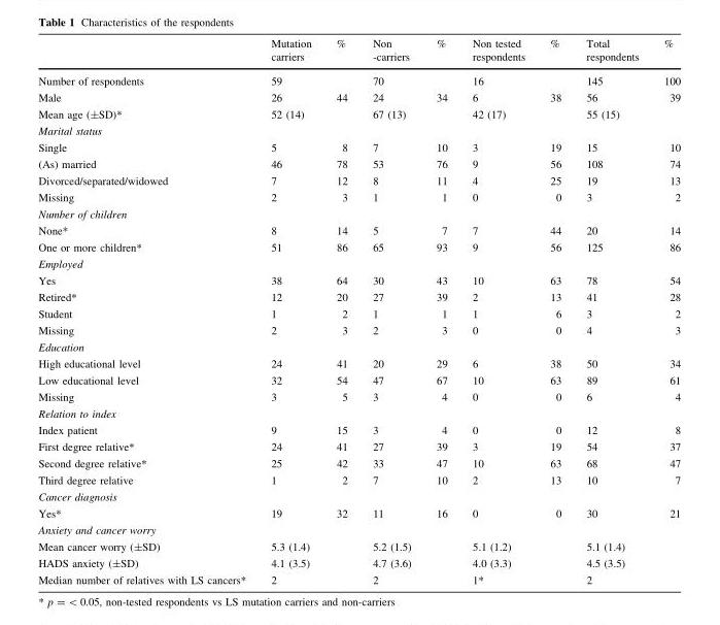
<table><thead><tr><td></td><td>Mutation carriers</td><td>%</td><td>Non -carriers</td><td>%</td><td>Non tested respondents</td><td>%</td><td>Total respondents</td><td>%</td></tr></thead><tbody><tr><td>Number of respondents</td><td>59</td><td></td><td>70</td><td></td><td>16</td><td></td><td>145</td><td>100</td></tr><tr><td>Male</td><td>26</td><td>44</td><td>24</td><td>34</td><td>6</td><td>38</td><td>56</td><td>39</td></tr><tr><td>Mean age (±SD)*</td><td>52 (14)</td><td></td><td>67 (13)</td><td></td><td>42 (17)</td><td></td><td>55 (15)</td><td></td></tr><tr><td colspan="9">Marital status</td></tr><tr><td>Single</td><td>5</td><td>8</td><td>7</td><td>10</td><td>3</td><td>19</td><td>15</td><td>10</td></tr><tr><td>(As) married</td><td>46</td><td>78</td><td>53</td><td>76</td><td>9</td><td>56</td><td>108</td><td>74</td></tr><tr><td>Divorced/separated/widowed</td><td>7</td><td>12</td><td>8</td><td>11</td><td>4</td><td>25</td><td>19</td><td>13</td></tr><tr><td>Missing</td><td>2</td><td>3</td><td>1</td><td>1</td><td>0</td><td>0</td><td>3</td><td>2</td></tr><tr><td colspan="9">Number of children</td></tr><tr><td>None*</td><td>8</td><td>14</td><td>5</td><td>7</td><td>7</td><td>44</td><td>20</td><td>14</td></tr><tr><td>One or more children*</td><td>51</td><td>86</td><td>65</td><td>93</td><td>9</td><td>56</td><td>125</td><td>86</td></tr><tr><td colspan="9">Employed</td></tr><tr><td>Yes</td><td>38</td><td>64</td><td>30</td><td>43</td><td>10</td><td>63</td><td>78</td><td>54</td></tr><tr><td>Retired*</td><td>12</td><td>20</td><td>27</td><td>39</td><td>2</td><td>13</td><td>41</td><td>28</td></tr><tr><td>Student</td><td>1</td><td>2</td><td>1</td><td>1</td><td>1</td><td>6</td><td>3</td><td>2</td></tr><tr><td>Missing</td><td>2</td><td>3</td><td>2</td><td>3</td><td>0</td><td>0</td><td>4</td><td>3</td></tr><tr><td colspan="9">Education</td></tr><tr><td>High educational level</td><td>24</td><td>41</td><td>20</td><td>29</td><td>6</td><td>38</td><td>50</td><td>34</td></tr><tr><td>Low educational level</td><td>32</td><td>54</td><td>47</td><td>67</td><td>10</td><td>63</td><td>89</td><td>61</td></tr><tr><td>Missing</td><td>3</td><td>5</td><td>3</td><td>4</td><td>0</td><td>0</td><td>6</td><td>4</td></tr><tr><td colspan="9">Relation to index</td></tr><tr><td>Index patient</td><td>9</td><td>15</td><td>3</td><td>4</td><td>0</td><td>0</td><td>12</td><td>8</td></tr><tr><td>First degree relative*</td><td>24</td><td>41</td><td>27</td><td>39</td><td>3</td><td>19</td><td>54</td><td>37</td></tr><tr><td>Second degree relative*</td><td>25</td><td>42</td><td>33</td><td>47</td><td>10</td><td>63</td><td>68</td><td>47</td></tr><tr><td>Third degree relative</td><td>1</td><td>2</td><td>7</td><td>10</td><td>2</td><td>13</td><td>10</td><td>7</td></tr><tr><td colspan="9">Cancer diagnosis</td></tr><tr><td>Yes*</td><td>19</td><td>32</td><td>11</td><td>16</td><td>0</td><td>0</td><td>30</td><td>21</td></tr><tr><td colspan="9">Anxiety and cancer worry</td></tr><tr><td>Mean cancer worry (±SD)</td><td>5.3 (1.4)</td><td></td><td>5.2 (1.5)</td><td></td><td>5.1 (1.2)</td><td></td><td>5.1 (1.4)</td><td></td></tr><tr><td>HADS anxiety (±SD)</td><td>4.1 (3.5)</td><td></td><td>4.7 (3.6)</td><td></td><td>4.0 (3.3)</td><td></td><td>4.5 (3.5)</td><td></td></tr><tr><td>Median number of relatives with LS cancers*</td><td>2</td><td></td><td>2</td><td></td><td>1*</td><td></td><td>2</td><td></td></tr></tbody></table>